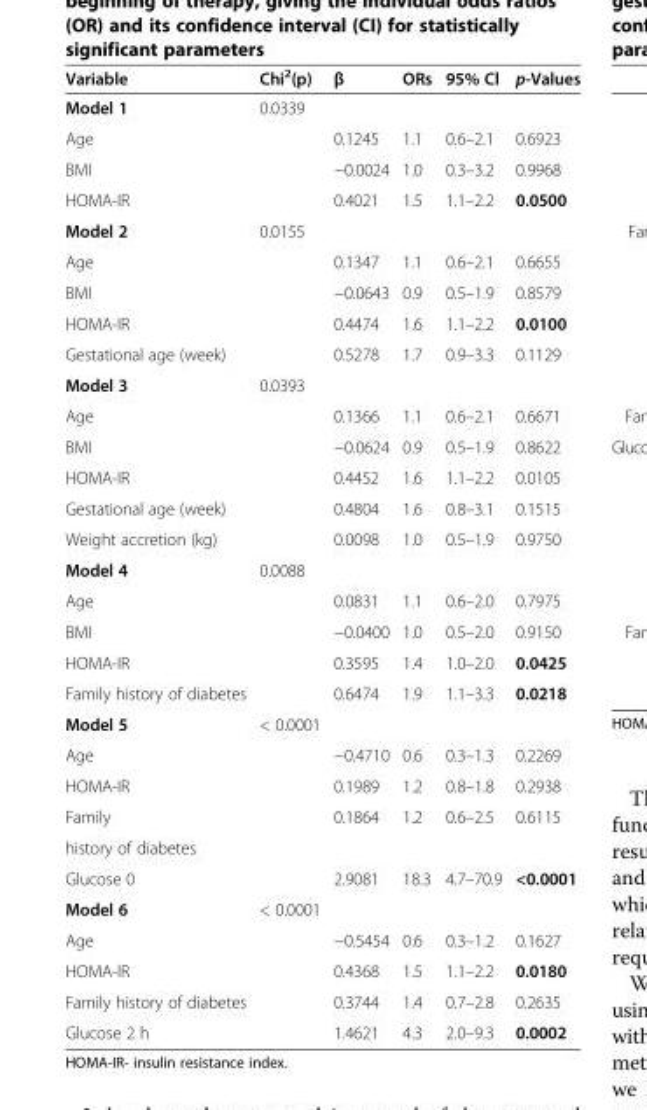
<table><thead><tr><td>Variable</td><td>Chi<sup>2</sup>(p)</td><td>β</td><td>ORs</td><td>95% Cl</td><td>p-Values</td></tr></thead><tbody><tr><td>Model 1</td><td>0.0339</td><td></td><td></td><td></td><td></td></tr><tr><td>Age</td><td></td><td>0.1245</td><td>1.1</td><td>0.6–2.1</td><td>0.6923</td></tr><tr><td>BMI</td><td></td><td>−0.0024</td><td>1.0</td><td>0.3–3.2</td><td>0.9968</td></tr><tr><td>HOMA-IR</td><td></td><td>0.4021</td><td>1.5</td><td>1.1–2.2</td><td>0.0500</td></tr><tr><td>Model 2</td><td>0.0155</td><td></td><td></td><td></td><td></td></tr><tr><td>Age</td><td></td><td>0.1347</td><td>1.1</td><td>0.6–2.1</td><td>0.6655</td></tr><tr><td>BMI</td><td></td><td>−0.0643</td><td>0.9</td><td>0.5–1.9</td><td>0.8579</td></tr><tr><td>HOMA-IR</td><td></td><td>0.4474</td><td>1.6</td><td>1.1–2.2</td><td>0.0100</td></tr><tr><td>Gestational age (week)</td><td></td><td>0.5278</td><td>1.7</td><td>0.9–3.3</td><td>0.1129</td></tr><tr><td>Model 3</td><td>0.0393</td><td></td><td></td><td></td><td></td></tr><tr><td>Age</td><td></td><td>0.1366</td><td>1.1</td><td>0.6–2.1</td><td>0.6671</td></tr><tr><td>BMI</td><td></td><td>−0.0624</td><td>0.9</td><td>0.5–1.9</td><td>0.8622</td></tr><tr><td>HOMA-IR</td><td></td><td>0.4452</td><td>1.6</td><td>1.1–2.2</td><td>0.0105</td></tr><tr><td>Gestational age (week)</td><td></td><td>0.4804</td><td>1.6</td><td>0.8–3.1</td><td>0.1515</td></tr><tr><td>Weight accretion (kg)</td><td></td><td>0.0098</td><td>1.0</td><td>0.5–1.9</td><td>0.9750</td></tr><tr><td>Model 4</td><td>0.0088</td><td></td><td></td><td></td><td></td></tr><tr><td>Age</td><td></td><td>0.0831</td><td>1.1</td><td>0.6–2.0</td><td>0.7975</td></tr><tr><td>BMI</td><td></td><td>−0.0400</td><td>1.0</td><td>0.5–2.0</td><td>0.9150</td></tr><tr><td>HOMA-IR</td><td></td><td>0.3595</td><td>1.4</td><td>1.0–2.0</td><td>0.0425</td></tr><tr><td>Family history of diabetes</td><td></td><td>0.6474</td><td>1.9</td><td>1.1–3.3</td><td>0.0218</td></tr><tr><td>Model 5</td><td>&lt; 0.0001</td><td></td><td></td><td></td><td></td></tr><tr><td>Age</td><td></td><td>−0.4710</td><td>0.6</td><td>0.3–1.3</td><td>0.2269</td></tr><tr><td>HOMA-IR</td><td></td><td>0.1989</td><td>1.2</td><td>0.8–1.8</td><td>0.2938</td></tr><tr><td>Family</td><td></td><td>0.1864</td><td>1.2</td><td>0.6–2.5</td><td>0.6115</td></tr><tr><td colspan="6">history of diabetes</td></tr><tr><td>Glucose 0</td><td></td><td>2.9081</td><td>18.3</td><td>4.7–70.9</td><td>&lt;0.0001</td></tr><tr><td>Model 6</td><td>&lt; 0.0001</td><td></td><td></td><td></td><td></td></tr><tr><td>Age</td><td></td><td>−0.5454</td><td>0.6</td><td>0.3–1.2</td><td>0.1627</td></tr><tr><td>HOMA-IR</td><td></td><td>0.4368</td><td>1.5</td><td>1.1–2.2</td><td>0.0180</td></tr><tr><td>Family history of diabetes</td><td></td><td>0.3744</td><td>1.4</td><td>0.7–2.8</td><td>0.2635</td></tr><tr><td>Glucose 2 h</td><td></td><td>1.4621</td><td>4.3</td><td>2.0–9.3</td><td>0.0002</td></tr></tbody></table>